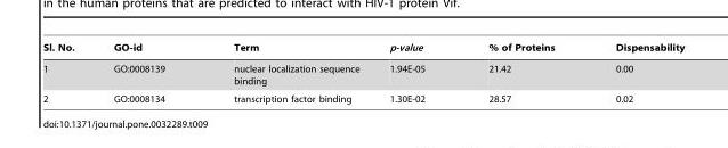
<table><thead><tr><td>Sl. No.</td><td>GO-id</td><td>Term</td><td>p-value</td><td>% of Proteins</td><td>Dispensability</td></tr></thead><tbody><tr><td>1</td><td>GO:0008139</td><td>nuclear localization sequence binding</td><td>1.94E-05</td><td>21.42</td><td>0.00</td></tr><tr><td>2</td><td>GO:0008134</td><td>transcription factor binding</td><td>1.30E-02</td><td>28.57</td><td>0.02</td></tr></tbody></table>